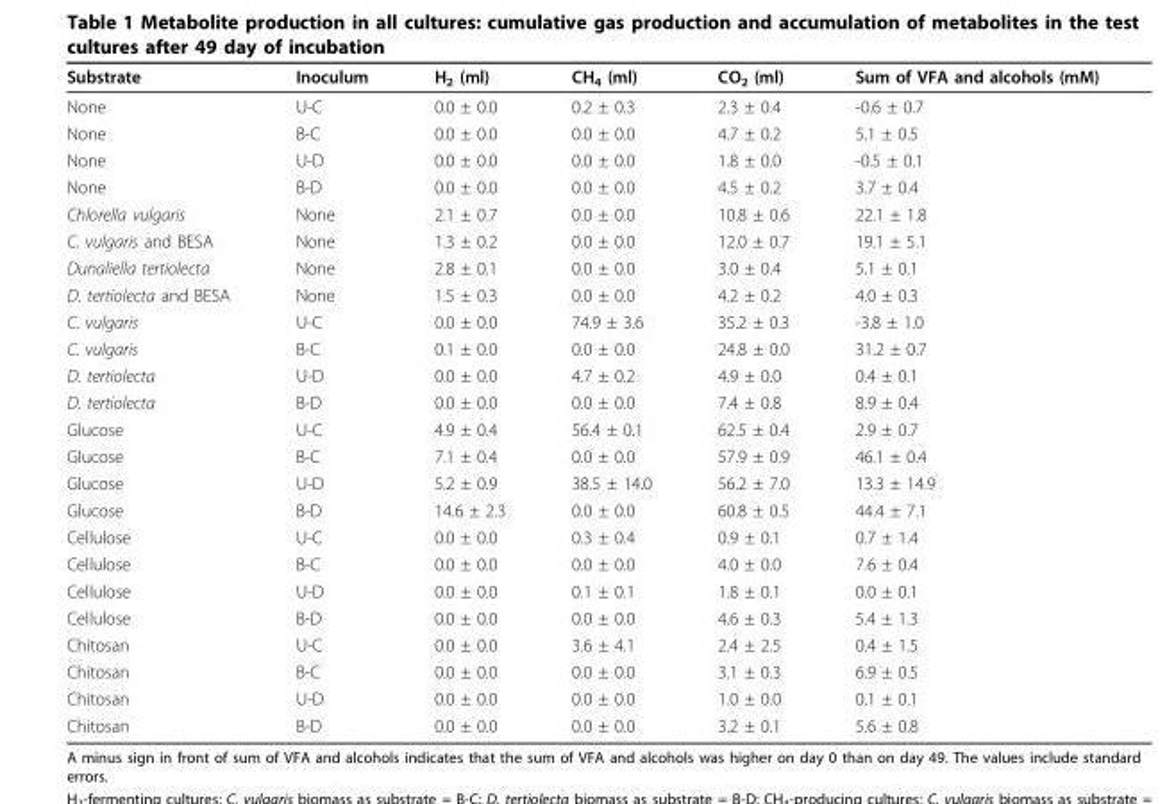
<table><thead><tr><td>Substrate</td><td>Inoculum</td><td>H<sub>2</sub> (ml)</td><td>CH<sub>4</sub> (ml)</td><td>CO<sub>2</sub> (ml)</td><td>Sum of VFA and alcohols (mM)</td></tr></thead><tbody><tr><td>None</td><td>U-C</td><td>0.0 ± 0.0</td><td>0.2 ± 0.3</td><td>2.3 ± 0.4</td><td>-0.6 ± 0.7</td></tr><tr><td>None</td><td>B-C</td><td>0.0 ± 0.0</td><td>0.0 ± 0.0</td><td>4.7 ± 0.2</td><td>5.1 ± 0.5</td></tr><tr><td>None</td><td>U-D</td><td>0.0 ± 0.0</td><td>0.0 ± 0.0</td><td>1.8 ± 0.0</td><td>-0.5 ± 0.1</td></tr><tr><td>None</td><td>B-D</td><td>0.0 ± 0.0</td><td>0.0 ± 0.0</td><td>4.5 ± 0.2</td><td>3.7 ± 0.4</td></tr><tr><td>Chlorella vulgaris</td><td>None</td><td>2.1 ± 0.7</td><td>0.0 ± 0.0</td><td>10.8 ± 0.6</td><td>22.1 ± 1.8</td></tr><tr><td>C. vulgaris and BESA</td><td>None</td><td>1.3 ± 0.2</td><td>0.0 ± 0.0</td><td>12.0 ± 0.7</td><td>19.1 ± 5.1</td></tr><tr><td>Dunaliella tertiolecta</td><td>None</td><td>2.8 ± 0.1</td><td>0.0 ± 0.0</td><td>3.0 ± 0.4</td><td>5.1 ± 0.1</td></tr><tr><td>D. tertiolecta and BESA</td><td>None</td><td>1.5 ± 0.3</td><td>0.0 ± 0.0</td><td>4.2 ± 0.2</td><td>4.0 ± 0.3</td></tr><tr><td>C. vulgaris</td><td>U-C</td><td>0.0 ± 0.0</td><td>74.9 ± 3.6</td><td>35.2 ± 0.3</td><td>-3.8 ± 1.0</td></tr><tr><td>C. vulgaris</td><td>B-C</td><td>0.1 ± 0.0</td><td>0.0 ± 0.0</td><td>24.8 ± 0.0</td><td>31.2 ± 0.7</td></tr><tr><td>D. tertiolecta</td><td>U-D</td><td>0.0 ± 0.0</td><td>4.7 ± 0.2</td><td>4.9 ± 0.0</td><td>0.4 ± 0.1</td></tr><tr><td>D. tertiolecta</td><td>B-D</td><td>0.0 ± 0.0</td><td>0.0 ± 0.0</td><td>7.4 ± 0.8</td><td>8.9 ± 0.4</td></tr><tr><td>Glucose</td><td>U-C</td><td>4.9 ± 0.4</td><td>56.4 ± 0.1</td><td>62.5 ± 0.4</td><td>2.9 ± 0.7</td></tr><tr><td>Glucose</td><td>B-C</td><td>7.1 ± 0.4</td><td>0.0 ± 0.0</td><td>57.9 ± 0.9</td><td>46.1 ± 0.4</td></tr><tr><td>Glucose</td><td>U-D</td><td>5.2 ± 0.9</td><td>38.5 ± 14.0</td><td>56.2 ± 7.0</td><td>13.3 ± 14.9</td></tr><tr><td>Glucose</td><td>B-D</td><td>14.6 ± 2.3</td><td>0.0 ± 0.0</td><td>60.8 ± 0.5</td><td>44.4 ± 7.1</td></tr><tr><td>Cellulose</td><td>U-C</td><td>0.0 ± 0.0</td><td>0.3 ± 0.4</td><td>0.9 ± 0.1</td><td>0.7 ± 1.4</td></tr><tr><td>Cellulose</td><td>B-C</td><td>0.0 ± 0.0</td><td>0.0 ± 0.0</td><td>4.0 ± 0.0</td><td>7.6 ± 0.4</td></tr><tr><td>Cellulose</td><td>U-D</td><td>0.0 ± 0.0</td><td>0.1 ± 0.1</td><td>1.8 ± 0.1</td><td>0.0 ± 0.1</td></tr><tr><td>Cellulose</td><td>B-D</td><td>0.0 ± 0.0</td><td>0.0 ± 0.0</td><td>4.6 ± 0.3</td><td>5.4 ± 1.3</td></tr><tr><td>Chitosan</td><td>U-C</td><td>0.0 ± 0.0</td><td>3.6 ± 4.1</td><td>2.4 ± 2.5</td><td>0.4 ± 1.5</td></tr><tr><td>Chitosan</td><td>B-C</td><td>0.0 ± 0.0</td><td>0.0 ± 0.0</td><td>3.1 ± 0.3</td><td>6.9 ± 0.5</td></tr><tr><td>Chitosan</td><td>U-D</td><td>0.0 ± 0.0</td><td>0.0 ± 0.0</td><td>1.0 ± 0.0</td><td>0.1 ± 0.1</td></tr><tr><td>Chitosan</td><td>B-D</td><td>0.0 ± 0.0</td><td>0.0 ± 0.0</td><td>3.2 ± 0.1</td><td>5.6 ± 0.8</td></tr></tbody></table>